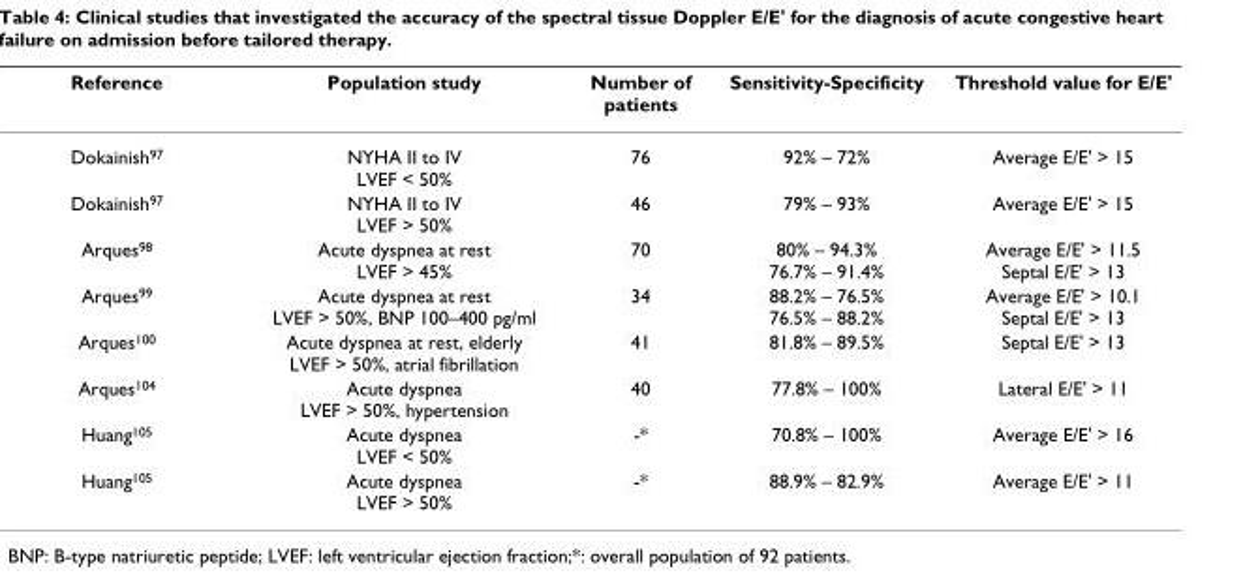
<table><thead><tr><td>Reference</td><td>Population study</td><td>Number of patients</td><td>Sensitivity-Specificity</td><td>Threshold value for E/E&#x27;</td></tr></thead><tbody><tr><td>Dokainish<sup>97</sup></td><td>NYHA II to IV LVEF &lt; 50%</td><td>76</td><td>92% – 72%</td><td>Average E/E&#x27; &gt; 15</td></tr><tr><td>Dokainish<sup>97</sup></td><td>NYHA II to IV LVEF &gt; 50%</td><td>46</td><td>79% – 93%</td><td>Average E/E&#x27; &gt; 15</td></tr><tr><td>Arques<sup>98</sup></td><td>Acute dyspnea at rest LVEF &gt; 45%</td><td>70</td><td>80% – 94.3% 76.7% – 91.4%</td><td>Average E/E&#x27; &gt; 11.5 Septal E/E&#x27; &gt; 13</td></tr><tr><td>Arques<sup>99</sup></td><td>Acute dyspnea at rest LVEF &gt; 50%, BNP 100–400 pg/ml</td><td>34</td><td>88.2% – 76.5% 76.5% – 88.2%</td><td>Average E/E&#x27; &gt; 10.1 Septal E/E&#x27; &gt; 13</td></tr><tr><td>Arques<sup>100</sup></td><td>Acute dyspnea at rest, elderly LVEF &gt; 50%, atrial fibrillation</td><td>41</td><td>81.8% – 89.5%</td><td>Septal E/E&#x27; &gt; 13</td></tr><tr><td>Arques<sup>104</sup></td><td>Acute dyspnea LVEF &gt; 50%, hypertension</td><td>40</td><td>77.8% – 100%</td><td>Lateral E/E&#x27; &gt; 11</td></tr><tr><td>Huang<sup>105</sup></td><td>Acute dyspnea LVEF &lt; 50%</td><td>-*</td><td>70.8% – 100%</td><td>Average E/E&#x27; &gt; 16</td></tr><tr><td>Huang<sup>105</sup></td><td>Acute dyspnea LVEF &gt; 50%</td><td>-*</td><td>88.9% – 82.9%</td><td>Average E/E&#x27; &gt; 11</td></tr></tbody></table>